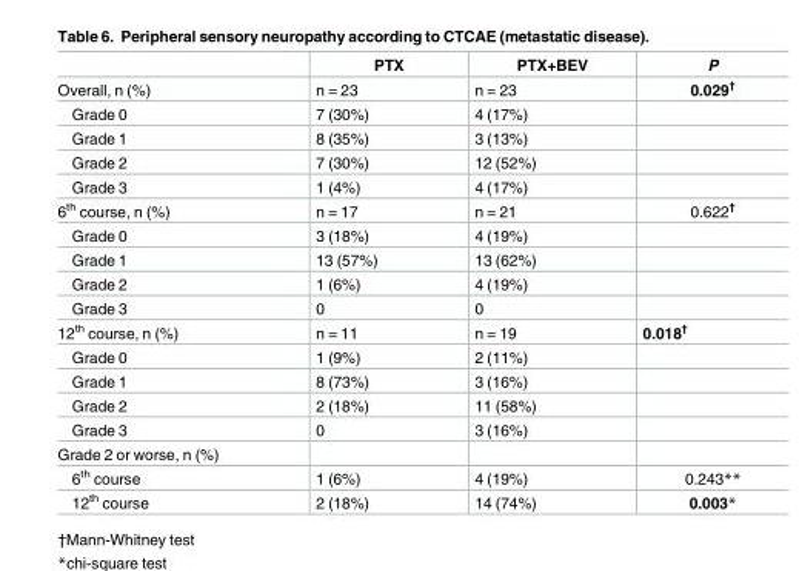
<table><thead><tr><td></td><td>PTX</td><td>PTX+BEV</td><td>P</td></tr></thead><tbody><tr><td>Overall, n (%)</td><td>n = 23</td><td>n = 23</td><td>0.029<sup>†</sup></td></tr><tr><td>Grade 0</td><td>7 (30%)</td><td>4 (17%)</td><td></td></tr><tr><td>Grade 1</td><td>8 (35%)</td><td>3 (13%)</td><td></td></tr><tr><td>Grade 2</td><td>7 (30%)</td><td>12 (52%)</td><td></td></tr><tr><td>Grade 3</td><td>1 (4%)</td><td>4 (17%)</td><td></td></tr><tr><td>6<sup>th</sup> course, n (%)</td><td>n = 17</td><td>n = 21</td><td>0.622<sup>†</sup></td></tr><tr><td>Grade 0</td><td>3 (18%)</td><td>4 (19%)</td><td></td></tr><tr><td>Grade 1</td><td>13 (57%)</td><td>13 (62%)</td><td></td></tr><tr><td>Grade 2</td><td>1 (6%)</td><td>4 (19%)</td><td></td></tr><tr><td>Grade 3</td><td>0</td><td>0</td><td></td></tr><tr><td>12<sup>th</sup> course, n (%)</td><td>n = 11</td><td>n = 19</td><td>0.018<sup>†</sup></td></tr><tr><td>Grade 0</td><td>1 (9%)</td><td>2 (11%)</td><td></td></tr><tr><td>Grade 1</td><td>8 (73%)</td><td>3 (16%)</td><td></td></tr><tr><td>Grade 2</td><td>2 (18%)</td><td>11 (58%)</td><td></td></tr><tr><td>Grade 3</td><td>0</td><td>3 (16%)</td><td></td></tr><tr><td colspan="4">Grade 2 or worse, n (%)</td></tr><tr><td>6<sup>th</sup> course</td><td>1 (6%)</td><td>4 (19%)</td><td>0.243**</td></tr><tr><td>12<sup>th</sup> course</td><td>2 (18%)</td><td>14 (74%)</td><td>0.003*</td></tr></tbody></table>